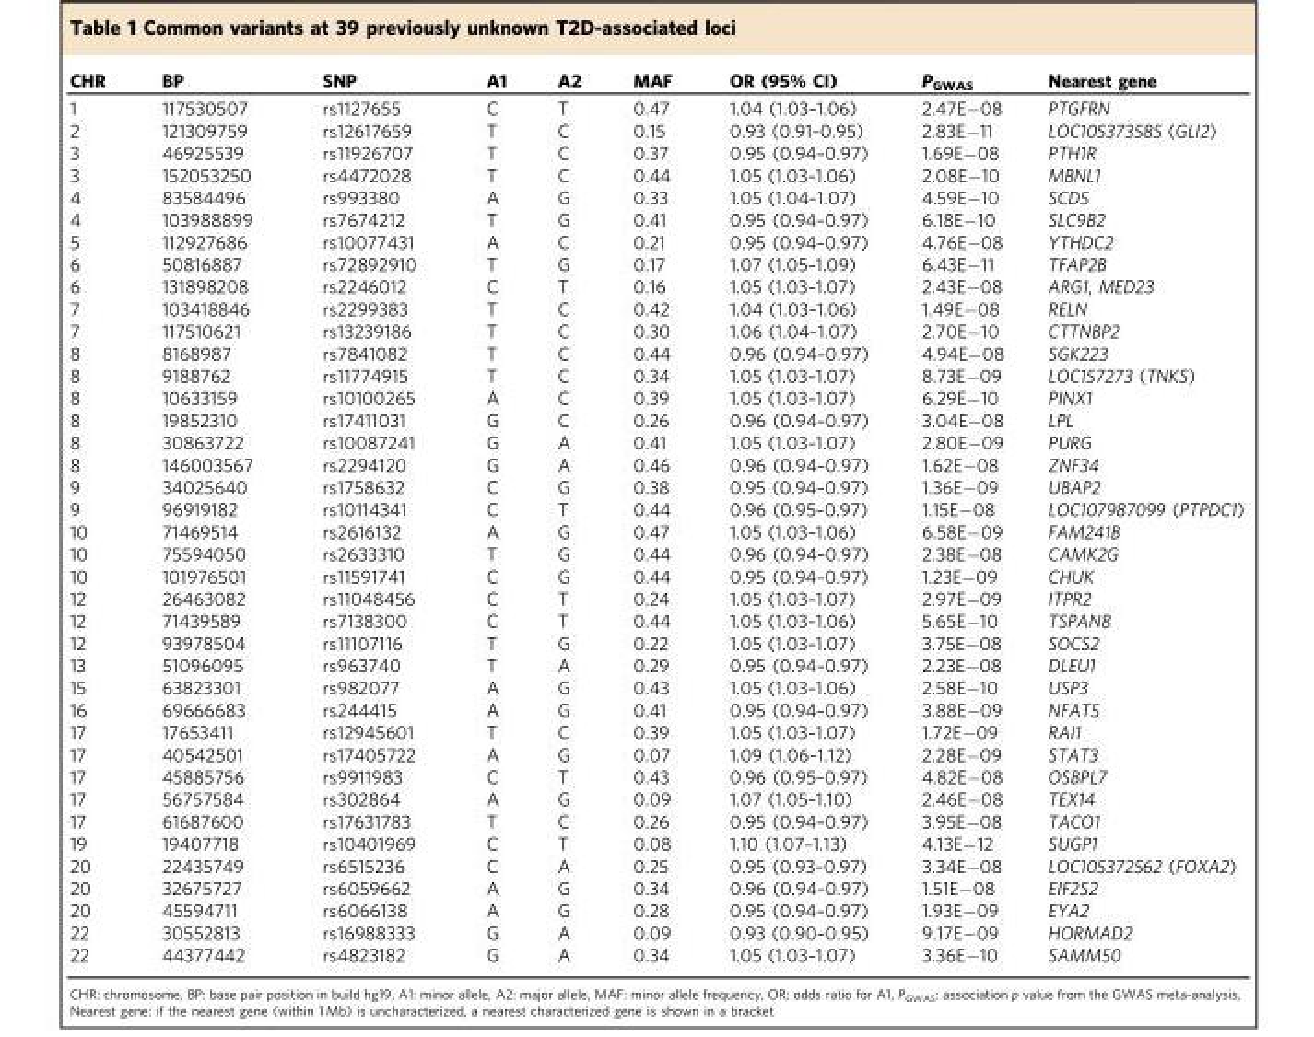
<table><thead><tr><td>CHR</td><td>BP</td><td>SNP</td><td>A1</td><td>A2</td><td>MAF</td><td>OR (95% CI)</td><td>P<sub>GWAS</sub></td><td>Nearest gene</td></tr></thead><tbody><tr><td>1</td><td>117530507</td><td>rs1127655</td><td>C</td><td>T</td><td>0.47</td><td>1.04 (1.03–1.06)</td><td>2.47E−08</td><td>PTGFRN</td></tr><tr><td>2</td><td>121309759</td><td>rs12617659</td><td>T</td><td>C</td><td>0.15</td><td>0.93 (0.91–0.95)</td><td>2.83E−11</td><td>LOC105373585 (GLI2)</td></tr><tr><td>3</td><td>46925539</td><td>rs11926707</td><td>T</td><td>C</td><td>0.37</td><td>0.95 (0.94–0.97)</td><td>1.69E−08</td><td>PTH1R</td></tr><tr><td>3</td><td>152053250</td><td>rs4472028</td><td>T</td><td>C</td><td>0.44</td><td>1.05 (1.03–1.06)</td><td>2.08E−10</td><td>MBNL1</td></tr><tr><td>4</td><td>83584496</td><td>rs993380</td><td>A</td><td>G</td><td>0.33</td><td>1.05 (1.04–1.07)</td><td>4.59E−10</td><td>SCD5</td></tr><tr><td>4</td><td>103988899</td><td>rs7674212</td><td>T</td><td>G</td><td>0.41</td><td>0.95 (0.94–0.97)</td><td>6.18E−10</td><td>SLC9B2</td></tr><tr><td>5</td><td>112927686</td><td>rs10077431</td><td>A</td><td>C</td><td>0.21</td><td>0.95 (0.94–0.97)</td><td>4.76E−08</td><td>YTHDC2</td></tr><tr><td>6</td><td>50816887</td><td>rs72892910</td><td>T</td><td>G</td><td>0.17</td><td>1.07 (1.05–1.09)</td><td>6.43E−11</td><td>TFAP2B</td></tr><tr><td>6</td><td>131898208</td><td>rs2246012</td><td>C</td><td>T</td><td>0.16</td><td>1.05 (1.03–1.07)</td><td>2.43E−08</td><td>ARG1, MED23</td></tr><tr><td>7</td><td>103418846</td><td>rs2299383</td><td>T</td><td>C</td><td>0.42</td><td>1.04 (1.03–1.06)</td><td>1.49E−08</td><td>RELN</td></tr><tr><td>7</td><td>117510621</td><td>rs13239186</td><td>T</td><td>C</td><td>0.30</td><td>1.06 (1.04–1.07)</td><td>2.70E−10</td><td>CTTNBP2</td></tr><tr><td>8</td><td>8168987</td><td>rs7841082</td><td>T</td><td>C</td><td>0.44</td><td>0.96 (0.94–0.97)</td><td>4.94E−08</td><td>SGK223</td></tr><tr><td>8</td><td>9188762</td><td>rs11774915</td><td>T</td><td>C</td><td>0.34</td><td>1.05 (1.03–1.07)</td><td>8.73E−09</td><td>LOC157273 (TNKS)</td></tr><tr><td>8</td><td>10633159</td><td>rs10100265</td><td>A</td><td>C</td><td>0.39</td><td>1.05 (1.03–1.07)</td><td>6.29E−10</td><td>PINX1</td></tr><tr><td>8</td><td>19852310</td><td>rs17411031</td><td>G</td><td>C</td><td>0.26</td><td>0.96 (0.94–0.97)</td><td>3.04E−08</td><td>LPL</td></tr><tr><td>8</td><td>30863722</td><td>rs10087241</td><td>G</td><td>A</td><td>0.41</td><td>1.05 (1.03–1.07)</td><td>2.80E−09</td><td>PURG</td></tr><tr><td>8</td><td>146003567</td><td>rs2294120</td><td>G</td><td>A</td><td>0.46</td><td>0.96 (0.94–0.97)</td><td>1.62E−08</td><td>ZNF34</td></tr><tr><td>9</td><td>34025640</td><td>rs1758632</td><td>C</td><td>G</td><td>0.38</td><td>0.95 (0.94–0.97)</td><td>1.36E−09</td><td>UBAP2</td></tr><tr><td>9</td><td>96919182</td><td>rs10114341</td><td>C</td><td>T</td><td>0.44</td><td>0.96 (0.95–0.97)</td><td>1.15E−08</td><td>LOC107987099 (PTPDC1)</td></tr><tr><td>10</td><td>71469514</td><td>rs2616132</td><td>A</td><td>G</td><td>0.47</td><td>1.05 (1.03–1.06)</td><td>6.58E−09</td><td>FAM241B</td></tr><tr><td>10</td><td>75594050</td><td>rs2633310</td><td>T</td><td>G</td><td>0.44</td><td>0.96 (0.94–0.97)</td><td>2.38E−08</td><td>CAMK2G</td></tr><tr><td>10</td><td>101976501</td><td>rs11591741</td><td>C</td><td>G</td><td>0.44</td><td>0.95 (0.94–0.97)</td><td>1.23E−09</td><td>CHUK</td></tr><tr><td>12</td><td>26463082</td><td>rs11048456</td><td>C</td><td>T</td><td>0.24</td><td>1.05 (1.03–1.07)</td><td>2.97E−09</td><td>ITPR2</td></tr><tr><td>12</td><td>71439589</td><td>rs7138300</td><td>C</td><td>T</td><td>0.44</td><td>1.05 (1.03–1.06)</td><td>5.65E−10</td><td>TSPAN8</td></tr><tr><td>12</td><td>93978504</td><td>rs11107116</td><td>T</td><td>G</td><td>0.22</td><td>1.05 (1.03–1.07)</td><td>3.75E−08</td><td>SOCS2</td></tr><tr><td>13</td><td>51096095</td><td>rs963740</td><td>T</td><td>A</td><td>0.29</td><td>0.95 (0.94–0.97)</td><td>2.23E−08</td><td>DLEU1</td></tr><tr><td>15</td><td>63823301</td><td>rs982077</td><td>A</td><td>G</td><td>0.43</td><td>1.05 (1.03–1.06)</td><td>2.58E−10</td><td>USP3</td></tr><tr><td>16</td><td>69666683</td><td>rs244415</td><td>A</td><td>G</td><td>0.41</td><td>0.95 (0.94–0.97)</td><td>3.88E−09</td><td>NFAT5</td></tr><tr><td>17</td><td>17653411</td><td>rs12945601</td><td>T</td><td>C</td><td>0.39</td><td>1.05 (1.03–1.07)</td><td>1.72E−09</td><td>RAI1</td></tr><tr><td>17</td><td>40542501</td><td>rs17405722</td><td>A</td><td>G</td><td>0.07</td><td>1.09 (1.06–1.12)</td><td>2.28E−09</td><td>STAT3</td></tr><tr><td>17</td><td>45885756</td><td>rs9911983</td><td>C</td><td>T</td><td>0.43</td><td>0.96 (0.95–0.97)</td><td>4.82E−08</td><td>OSBPL7</td></tr><tr><td>17</td><td>56757584</td><td>rs302864</td><td>A</td><td>G</td><td>0.09</td><td>1.07 (1.05–1.10)</td><td>2.46E−08</td><td>TEX14</td></tr><tr><td>17</td><td>61687600</td><td>rs17631783</td><td>T</td><td>C</td><td>0.26</td><td>0.95 (0.94–0.97)</td><td>3.95E−08</td><td>TACO1</td></tr><tr><td>19</td><td>19407718</td><td>rs10401969</td><td>C</td><td>T</td><td>0.08</td><td>1.10 (1.07–1.13)</td><td>4.13E−12</td><td>SUGP1</td></tr><tr><td>20</td><td>22435749</td><td>rs6515236</td><td>C</td><td>A</td><td>0.25</td><td>0.95 (0.93–0.97)</td><td>3.34E−08</td><td>LOC105372562 (FOXA2)</td></tr><tr><td>20</td><td>32675727</td><td>rs6059662</td><td>A</td><td>G</td><td>0.34</td><td>0.96 (0.94–0.97)</td><td>1.51E−08</td><td>EIF2S2</td></tr><tr><td>20</td><td>45594711</td><td>rs6066138</td><td>A</td><td>G</td><td>0.28</td><td>0.95 (0.94–0.97)</td><td>1.93E−09</td><td>EYA2</td></tr><tr><td>22</td><td>30552813</td><td>rs16988333</td><td>G</td><td>A</td><td>0.09</td><td>0.93 (0.90–0.95)</td><td>9.17E−09</td><td>HORMAD2</td></tr><tr><td>22</td><td>44377442</td><td>rs4823182</td><td>G</td><td>A</td><td>0.34</td><td>1.05 (1.03–1.07)</td><td>3.36E−10</td><td>SAMM50</td></tr></tbody></table>